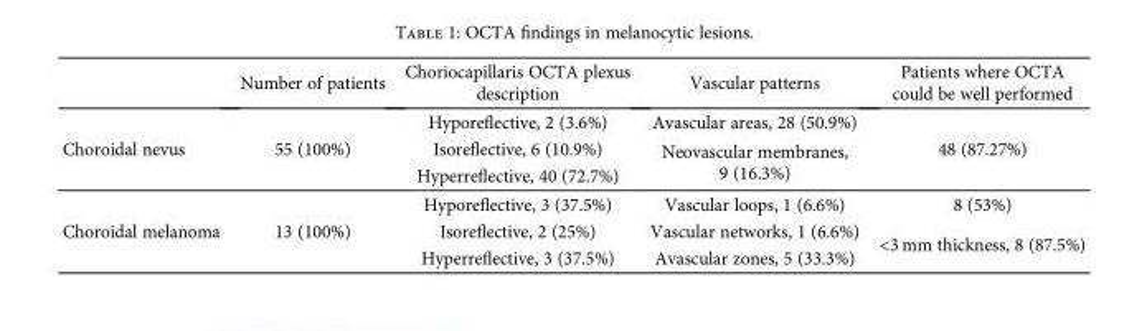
<table><thead><tr><td></td><td>Number of patients</td><td>Choriocapillaris OCTA plexus description</td><td>Vascular patterns</td><td>Patients where OCTA could be well performed</td></tr></thead><tbody><tr><td rowspan="3">Choroidal nevus</td><td rowspan="3">55 (100%)</td><td>Hyporeflective, 2 (3.6%)</td><td>Avascular areas, 28 (50.9%)</td><td rowspan="3">48 (87.27%)</td></tr><tr><td>Isoreflective, 6 (10.9%)</td><td rowspan="2">Neovascular membranes, 9 (16.3%)</td></tr><tr><td>Hyperreflective, 40 (72.7%)</td></tr><tr><td rowspan="3">Choroidal melanoma</td><td rowspan="3">13 (100%)</td><td>Hyporeflective, 3 (37.5%)</td><td>Vascular loops, 1 (6.6%)</td><td>8 (53%)</td></tr><tr><td>Isoreflective, 2 (25%)</td><td>Vascular networks, 1 (6.6%)</td><td rowspan="2">&lt;3 mm thickness, 8 (87.5%)</td></tr><tr><td>Hyperreflective, 3 (37.5%)</td><td>Avascular zones, 5 (33.3%)</td></tr></tbody></table>